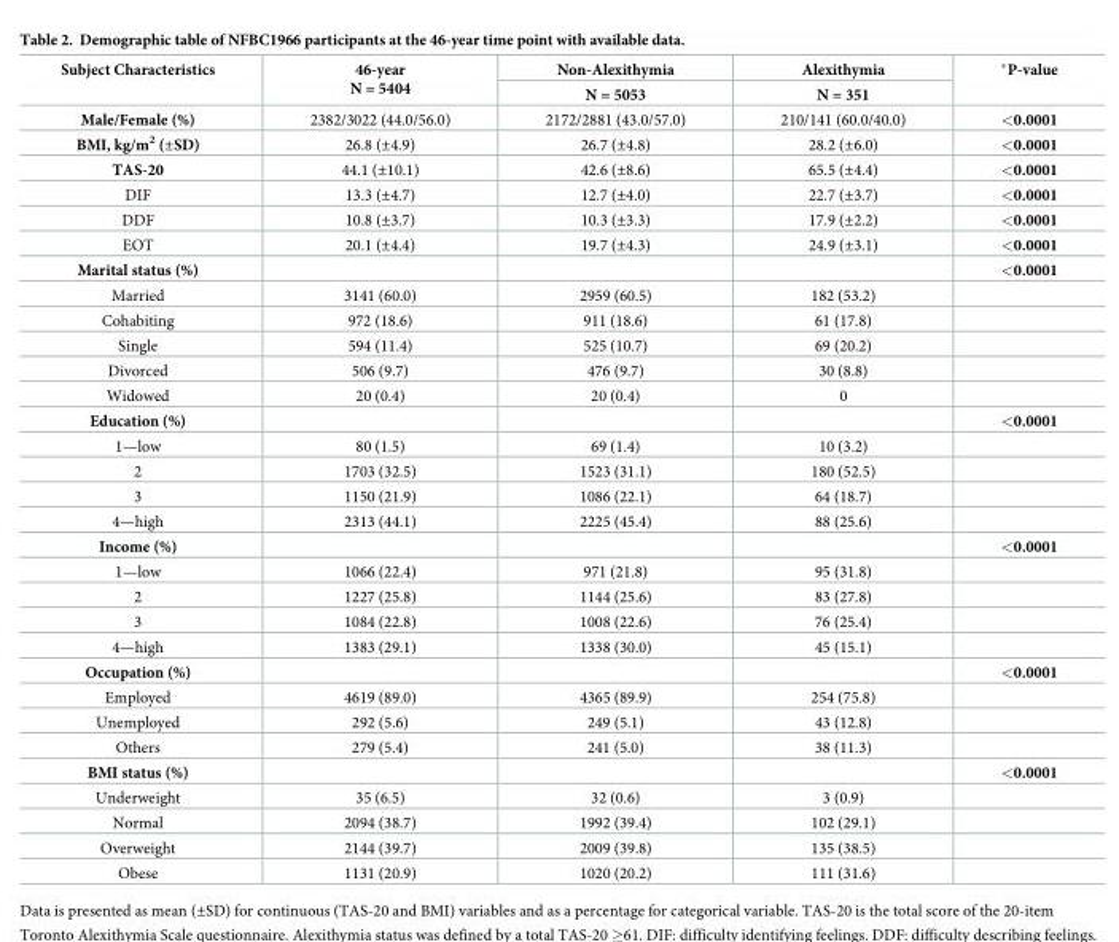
<table><thead><tr><td rowspan="2">Subject Characteristics</td><td rowspan="2">46-year N = 5404</td><td rowspan="2">Non-Alexithymia N = 5053</td><td rowspan="2">Alexithymia N = 351</td><td rowspan="2">*P-value</td></tr><tr></tr></thead><tbody><tr><td>Male/Female (%)</td><td>2382/3022 (44.0/56.0)</td><td>2172/2881 (43.0/57.0)</td><td>210/141 (60.0/40.0)</td><td>&lt;0.0001</td></tr><tr><td>BMI, kg/m<sup>2</sup> (±SD)</td><td>26.8 (±4.9)</td><td>26.7 (±4.8)</td><td>28.2 (±6.0)</td><td>&lt;0.0001</td></tr><tr><td>TAS-20</td><td>44.1 (±10.1)</td><td>42.6 (±8.6)</td><td>65.5 (±4.4)</td><td>&lt;0.0001</td></tr><tr><td>DIF</td><td>13.3 (±4.7)</td><td>12.7 (±4.0)</td><td>22.7 (±3.7)</td><td>&lt;0.0001</td></tr><tr><td>DDF</td><td>10.8 (±3.7)</td><td>10.3 (±3.3)</td><td>17.9 (±2.2)</td><td>&lt;0.0001</td></tr><tr><td>EOT</td><td>20.1 (±4.4)</td><td>19.7 (±4.3)</td><td>24.9 (±3.1)</td><td>&lt;0.0001</td></tr><tr><td>Marital status (%)</td><td></td><td></td><td></td><td>&lt;0.0001</td></tr><tr><td>Married</td><td>3141 (60.0)</td><td>2959 (60.5)</td><td>182 (53.2)</td><td></td></tr><tr><td>Cohabiting</td><td>972 (18.6)</td><td>911 (18.6)</td><td>61 (17.8)</td><td></td></tr><tr><td>Single</td><td>594 (11.4)</td><td>525 (10.7)</td><td>69 (20.2)</td><td></td></tr><tr><td>Divorced</td><td>506 (9.7)</td><td>476 (9.7)</td><td>30 (8.8)</td><td></td></tr><tr><td>Widowed</td><td>20 (0.4)</td><td>20 (0.4)</td><td>0</td><td></td></tr><tr><td>Education (%)</td><td></td><td></td><td></td><td>&lt;0.0001</td></tr><tr><td>1—low</td><td>80 (1.5)</td><td>69 (1.4)</td><td>10 (3.2)</td><td></td></tr><tr><td>2</td><td>1703 (32.5)</td><td>1523 (31.1)</td><td>180 (52.5)</td><td></td></tr><tr><td>3</td><td>1150 (21.9)</td><td>1086 (22.1)</td><td>64 (18.7)</td><td></td></tr><tr><td>4—high</td><td>2313 (44.1)</td><td>2225 (45.4)</td><td>88 (25.6)</td><td></td></tr><tr><td>Income (%)</td><td></td><td></td><td></td><td>&lt;0.0001</td></tr><tr><td>1—low</td><td>1066 (22.4)</td><td>971 (21.8)</td><td>95 (31.8)</td><td></td></tr><tr><td>2</td><td>1227 (25.8)</td><td>1144 (25.6)</td><td>83 (27.8)</td><td></td></tr><tr><td>3</td><td>1084 (22.8)</td><td>1008 (22.6)</td><td>76 (25.4)</td><td></td></tr><tr><td>4—high</td><td>1383 (29.1)</td><td>1338 (30.0)</td><td>45 (15.1)</td><td></td></tr><tr><td>Occupation (%)</td><td></td><td></td><td></td><td>&lt;0.0001</td></tr><tr><td>Employed</td><td>4619 (89.0)</td><td>4365 (89.9)</td><td>254 (75.8)</td><td></td></tr><tr><td>Unemployed</td><td>292 (5.6)</td><td>249 (5.1)</td><td>43 (12.8)</td><td></td></tr><tr><td>Others</td><td>279 (5.4)</td><td>241 (5.0)</td><td>38 (11.3)</td><td></td></tr><tr><td>BMI status (%)</td><td></td><td></td><td></td><td>&lt;0.0001</td></tr><tr><td>Underweight</td><td>35 (6.5)</td><td>32 (0.6)</td><td>3 (0.9)</td><td></td></tr><tr><td>Normal</td><td>2094 (38.7)</td><td>1992 (39.4)</td><td>102 (29.1)</td><td></td></tr><tr><td>Overweight</td><td>2144 (39.7)</td><td>2009 (39.8)</td><td>135 (38.5)</td><td></td></tr><tr><td>Obese</td><td>1131 (20.9)</td><td>1020 (20.2)</td><td>111 (31.6)</td><td></td></tr></tbody></table>